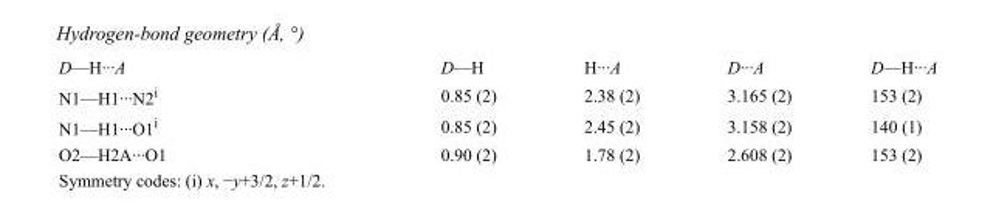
<table><tbody><tr><td>D—H···A</td><td>D—H</td><td>H···A</td><td>D···A</td><td>D—H···A</td></tr><tr><td>N1—H1···N2<sup>i</sup></td><td>0.85 (2)</td><td>2.38 (2)</td><td>3.165 (2)</td><td>153 (2)</td></tr><tr><td>N1—H1···O1<sup>i</sup></td><td>0.85 (2)</td><td>2.45 (2)</td><td>3.158 (2)</td><td>140 (1)</td></tr><tr><td>O2—H2A···O1</td><td>0.90 (2)</td><td>1.78 (2)</td><td>2.608 (2)</td><td>153 (2)</td></tr></tbody></table>